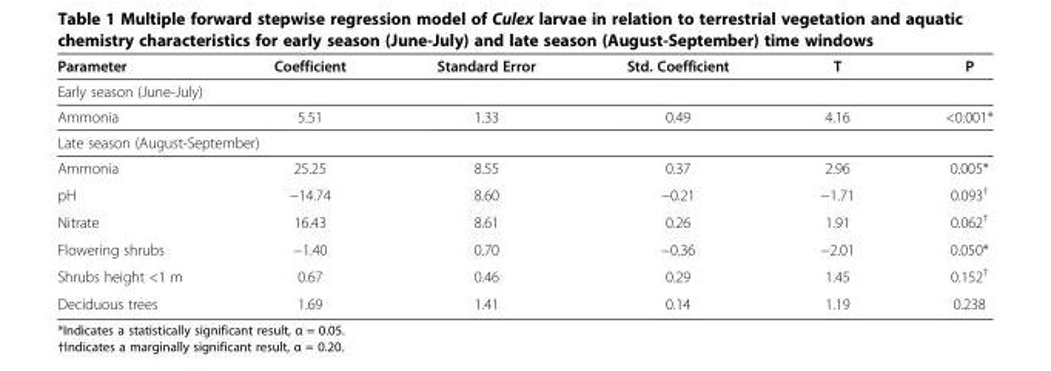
<table><thead><tr><td>Parameter</td><td>Coefficient</td><td>Standard Error</td><td>Std. Coefficient</td><td>T</td><td>P</td></tr></thead><tbody><tr><td colspan="6">Early season (June-July)</td></tr><tr><td>Ammonia</td><td>5.51</td><td>1.33</td><td>0.49</td><td>4.16</td><td>&lt;0.001*</td></tr><tr><td colspan="6">Late season (August-September)</td></tr><tr><td>Ammonia</td><td>25.25</td><td>8.55</td><td>0.37</td><td>2.96</td><td>0.005*</td></tr><tr><td>pH</td><td>−14.74</td><td>8.60</td><td>−0.21</td><td>−1.71</td><td>0.093<sup>†</sup></td></tr><tr><td>Nitrate</td><td>16.43</td><td>8.61</td><td>0.26</td><td>1.91</td><td>0.062<sup>†</sup></td></tr><tr><td>Flowering shrubs</td><td>−1.40</td><td>0.70</td><td>−0.36</td><td>−2.01</td><td>0.050*</td></tr><tr><td>Shrubs height &lt;1 m</td><td>0.67</td><td>0.46</td><td>0.29</td><td>1.45</td><td>0.152<sup>†</sup></td></tr><tr><td>Deciduous trees</td><td>1.69</td><td>1.41</td><td>0.14</td><td>1.19</td><td>0.238</td></tr></tbody></table>